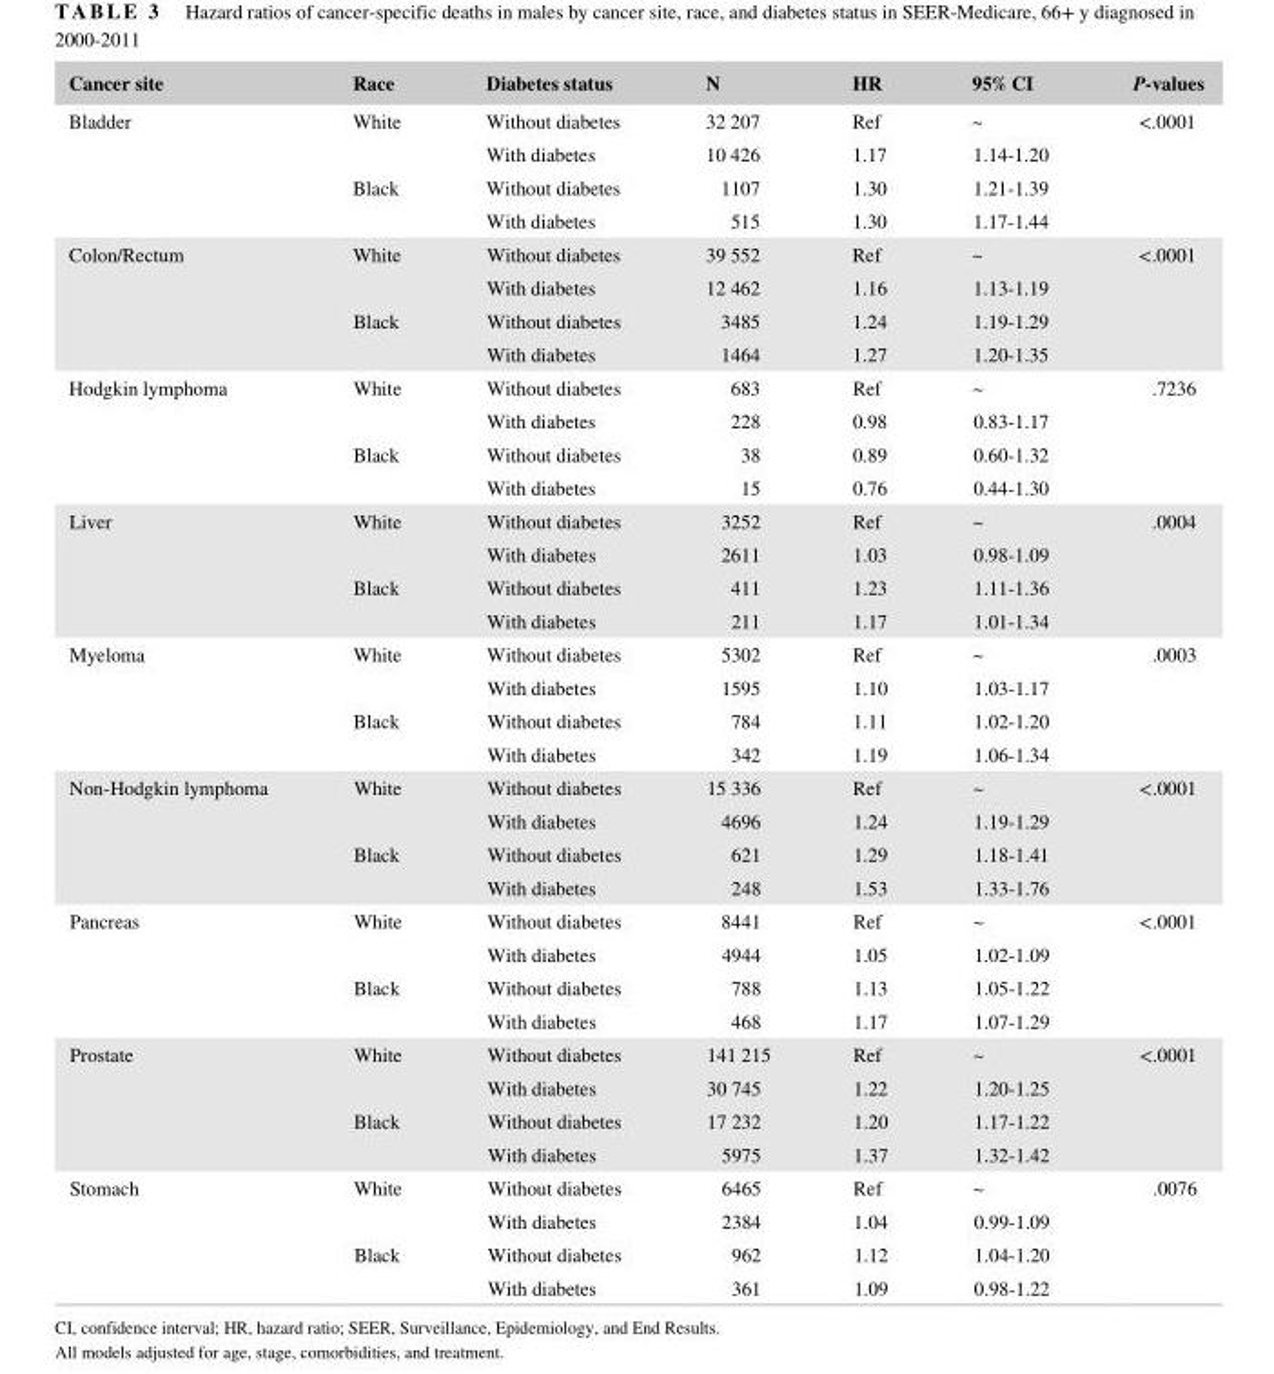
<table><thead><tr><td>Cancer site</td><td>Race</td><td>Diabetes status</td><td>N</td><td>HR</td><td>95% CI</td><td>P- values</td></tr></thead><tbody><tr><td rowspan="4">Bladder</td><td rowspan="2">White</td><td>Without diabetes</td><td>32 207</td><td>Ref</td><td>~</td><td rowspan="4">&lt;.0001</td></tr><tr><td>With diabetes</td><td>10 426</td><td>1.17</td><td>1.14- 1.20</td></tr><tr><td rowspan="2">Black</td><td>Without diabetes</td><td>1107</td><td>1.30</td><td>1.21- 1.39</td></tr><tr><td>With diabetes</td><td>515</td><td>1.30</td><td>1.17- 1.44</td></tr><tr><td rowspan="4">Colon/Rectum</td><td rowspan="2">White</td><td>Without diabetes</td><td>39 552</td><td>Ref</td><td>~</td><td rowspan="4">&lt;.0001</td></tr><tr><td>With diabetes</td><td>12 462</td><td>1.16</td><td>1.13- 1.19</td></tr><tr><td rowspan="2">Black</td><td>Without diabetes</td><td>3485</td><td>1.24</td><td>1.19- 1.29</td></tr><tr><td>With diabetes</td><td>1464</td><td>1.27</td><td>1.20- 1.35</td></tr><tr><td rowspan="4">Hodgkin lymphoma</td><td rowspan="2">White</td><td>Without diabetes</td><td>683</td><td>Ref</td><td>~</td><td rowspan="4">.7236</td></tr><tr><td>With diabetes</td><td>228</td><td>0.98</td><td>0.83- 1.17</td></tr><tr><td rowspan="2">Black</td><td>Without diabetes</td><td>38</td><td>0.89</td><td>0.60- 1.32</td></tr><tr><td>With diabetes</td><td>15</td><td>0.76</td><td>0.44- 1.30</td></tr><tr><td rowspan="4">Liver</td><td rowspan="2">White</td><td>Without diabetes</td><td>3252</td><td>Ref</td><td>~</td><td rowspan="4">.0004</td></tr><tr><td>With diabetes</td><td>2611</td><td>1.03</td><td>0.98- 1.09</td></tr><tr><td rowspan="2">Black</td><td>Without diabetes</td><td>411</td><td>1.23</td><td>1.11- 1.36</td></tr><tr><td>With diabetes</td><td>211</td><td>1.17</td><td>1.01- 1.34</td></tr><tr><td rowspan="4">Myeloma</td><td rowspan="2">White</td><td>Without diabetes</td><td>5302</td><td>Ref</td><td>~</td><td rowspan="4">.0003</td></tr><tr><td>With diabetes</td><td>1595</td><td>1.10</td><td>1.03- 1.17</td></tr><tr><td rowspan="2">Black</td><td>Without diabetes</td><td>784</td><td>1.11</td><td>1.02- 1.20</td></tr><tr><td>With diabetes</td><td>342</td><td>1.19</td><td>1.06- 1.34</td></tr><tr><td rowspan="4">Non- Hodgkin lymphoma</td><td rowspan="2">White</td><td>Without diabetes</td><td>15 336</td><td>Ref</td><td>~</td><td rowspan="4">&lt;.0001</td></tr><tr><td>With diabetes</td><td>4696</td><td>1.24</td><td>1.19- 1.29</td></tr><tr><td rowspan="2">Black</td><td>Without diabetes</td><td>621</td><td>1.29</td><td>1.18- 1.41</td></tr><tr><td>With diabetes</td><td>248</td><td>1.53</td><td>1.33- 1.76</td></tr><tr><td rowspan="4">Pancreas</td><td rowspan="2">White</td><td>Without diabetes</td><td>8441</td><td>Ref</td><td>~</td><td rowspan="4">&lt;.0001</td></tr><tr><td>With diabetes</td><td>4944</td><td>1.05</td><td>1.02- 1.09</td></tr><tr><td rowspan="2">Black</td><td>Without diabetes</td><td>788</td><td>1.13</td><td>1.05- 1.22</td></tr><tr><td>With diabetes</td><td>468</td><td>1.17</td><td>1.07- 1.29</td></tr><tr><td rowspan="4">Prostate</td><td rowspan="2">White</td><td>Without diabetes</td><td>141 215</td><td>Ref</td><td>~</td><td rowspan="4">&lt;.0001</td></tr><tr><td>With diabetes</td><td>30 745</td><td>1.22</td><td>1.20- 1.25</td></tr><tr><td rowspan="2">Black</td><td>Without diabetes</td><td>17 232</td><td>1.20</td><td>1.17- 1.22</td></tr><tr><td>With diabetes</td><td>5975</td><td>1.37</td><td>1.32- 1.42</td></tr><tr><td rowspan="4">Stomach</td><td rowspan="2">White</td><td>Without diabetes</td><td>6465</td><td>Ref</td><td>~</td><td rowspan="4">.0076</td></tr><tr><td>With diabetes</td><td>2384</td><td>1.04</td><td>0.99- 1.09</td></tr><tr><td rowspan="2">Black</td><td>Without diabetes</td><td>962</td><td>1.12</td><td>1.04- 1.20</td></tr><tr><td>With diabetes</td><td>361</td><td>1.09</td><td>0.98- 1.22</td></tr></tbody></table>